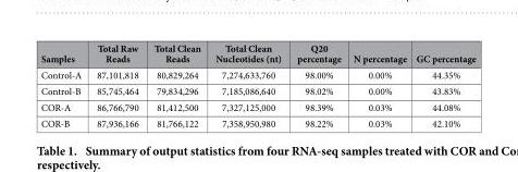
<table><thead><tr><td>Samples</td><td>Total Raw Reads</td><td>Total Clean Reads</td><td>Total Clean Nucleotides (nt)</td><td>Q20 percentage</td><td>N percentage</td><td>GC percentage</td></tr></thead><tbody><tr><td>Control-A</td><td>87,101,818</td><td>80,829,264</td><td>7,274,633,760</td><td>98.00%</td><td>0.00%</td><td>44.35%</td></tr><tr><td>Control-B</td><td>85,745,464</td><td>79,834,296</td><td>7,185,086,640</td><td>98.02%</td><td>0.00%</td><td>43.83%</td></tr><tr><td>COR-A</td><td>86,766,790</td><td>81,412,500</td><td>7,327,125,000</td><td>98.39%</td><td>0.03%</td><td>44.08%</td></tr><tr><td>COR-B</td><td>87,936,166</td><td>81,766,122</td><td>7,358,950,980</td><td>98.22%</td><td>0.03%</td><td>42.10%</td></tr></tbody></table>